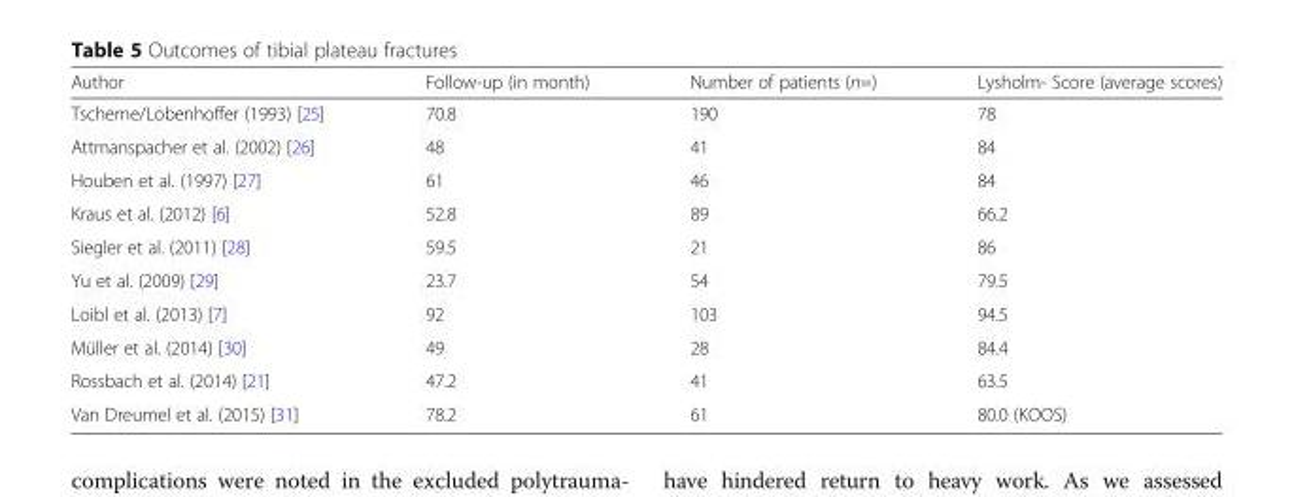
<table><thead><tr><td>Author</td><td>Follow-up (in month)</td><td>Number of patients (n=)</td><td>Lysholm- Score (average scores)</td></tr></thead><tbody><tr><td>Tscherne/Lobenhoffer (1993) [25]</td><td>70.8</td><td>190</td><td>78</td></tr><tr><td>Attmanspacher et al. (2002) [26]</td><td>48</td><td>41</td><td>84</td></tr><tr><td>Houben et al. (1997) [27]</td><td>61</td><td>46</td><td>84</td></tr><tr><td>Kraus et al. (2012) [6]</td><td>52.8</td><td>89</td><td>66.2</td></tr><tr><td>Siegler et al. (2011) [28]</td><td>59.5</td><td>21</td><td>86</td></tr><tr><td>Yu et al. (2009) [29]</td><td>23.7</td><td>54</td><td>79.5</td></tr><tr><td>Loibl et al. (2013) [7]</td><td>92</td><td>103</td><td>94.5</td></tr><tr><td>Müller et al. (2014) [30]</td><td>49</td><td>28</td><td>84.4</td></tr><tr><td>Rossbach et al. (2014) [21]</td><td>47.2</td><td>41</td><td>63.5</td></tr><tr><td>Van Dreumel et al. (2015) [31]</td><td>78.2</td><td>61</td><td>80.0 (KOOS)</td></tr></tbody></table>